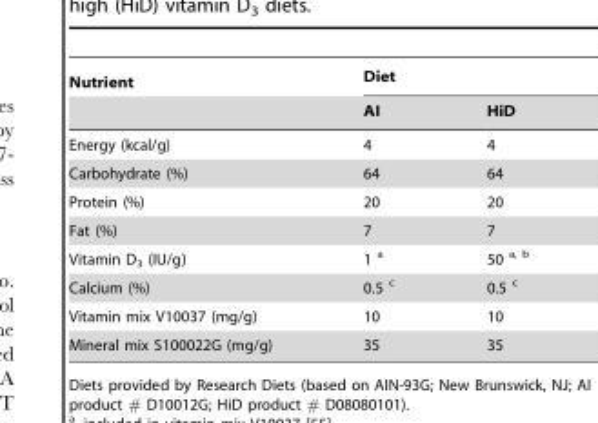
<table><thead><tr><td rowspan="2">Nutrient</td><td colspan="2">Diet</td></tr><tr><td>AI</td><td>HiD</td></tr></thead><tbody><tr><td>Energy (kcal/g)</td><td>4</td><td>4</td></tr><tr><td>Carbohydrate (%)</td><td>64</td><td>64</td></tr><tr><td>Protein (%)</td><td>20</td><td>20</td></tr><tr><td>Fat (%)</td><td>7</td><td>7</td></tr><tr><td>Vitamin D<sub>3</sub> (IU/g)</td><td>1 a</td><td>50 a, b</td></tr><tr><td>Calcium (%)</td><td>0.5 c</td><td>0.5 c</td></tr><tr><td>Vitamin mix V10037 (mg/g)</td><td>10</td><td>10</td></tr><tr><td>Mineral mix S100022G (mg/g)</td><td>35</td><td>35</td></tr></tbody></table>